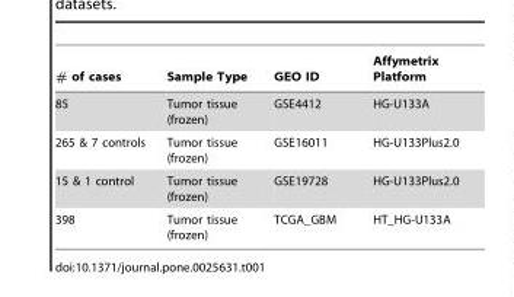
<table><thead><tr><td># of cases</td><td>Sample Type</td><td>GEO ID</td><td>Affymetrix Platform</td></tr></thead><tbody><tr><td>85</td><td>Tumor tissue (frozen)</td><td>GSE4412</td><td>HG-U133A</td></tr><tr><td>265 &amp; 7 controls</td><td>Tumor tissue (frozen)</td><td>GSE16011</td><td>HG-U133Plus2.0</td></tr><tr><td>15 &amp; 1 control</td><td>Tumor tissue (frozen)</td><td>GSE19728</td><td>HG-U133Plus2.0</td></tr><tr><td>398</td><td>Tumor tissue (frozen)</td><td>TCGA_GBM</td><td>HT_HG-U133A</td></tr></tbody></table>